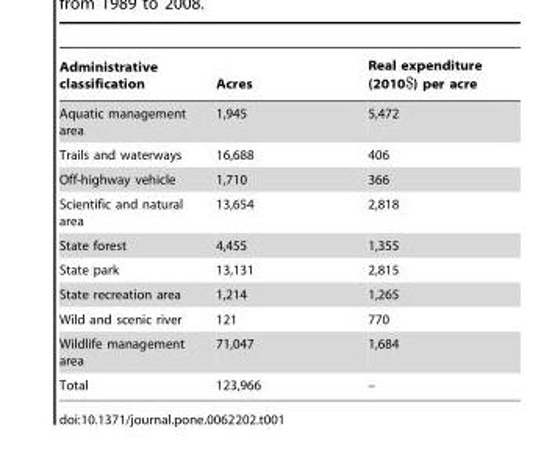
<table><thead><tr><td>Administrative classification</td><td>Acres</td><td>Real expenditure (2010$) per acre</td></tr></thead><tbody><tr><td>Aquatic management area</td><td>1,945</td><td>5,472</td></tr><tr><td>Trails and waterways</td><td>16,688</td><td>406</td></tr><tr><td>Off-highway vehicle</td><td>1,710</td><td>366</td></tr><tr><td>Scientific and natural area</td><td>13,654</td><td>2,818</td></tr><tr><td>State forest</td><td>4,455</td><td>1,355</td></tr><tr><td>State park</td><td>13,131</td><td>2,815</td></tr><tr><td>State recreation area</td><td>1,214</td><td>1,265</td></tr><tr><td>Wild and scenic river</td><td>121</td><td>770</td></tr><tr><td>Wildlife management area</td><td>71,047</td><td>1,684</td></tr><tr><td>Total</td><td>123,966</td><td>–</td></tr></tbody></table>